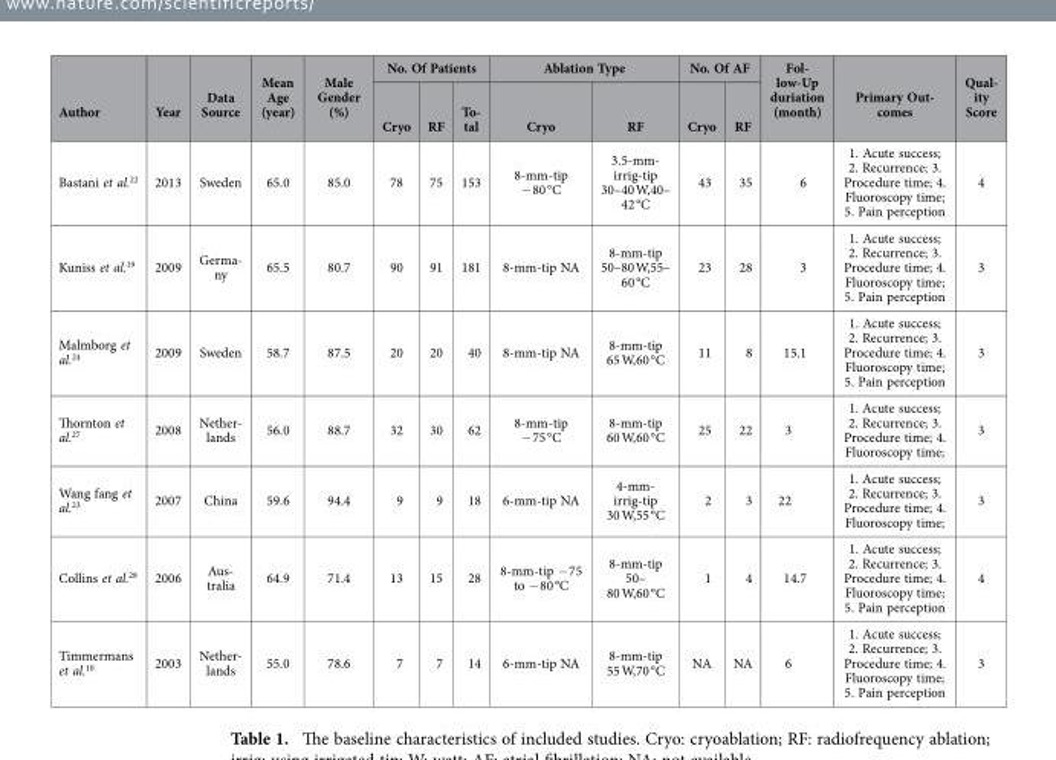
<table><thead><tr><td rowspan="2">Author</td><td rowspan="2">Year</td><td rowspan="2">Data Source</td><td rowspan="2">Mean Age (year)</td><td rowspan="2">Male Gender (%)</td><td colspan="3">No. Of Patients</td><td colspan="2">Ablation Type</td><td colspan="2">No. Of AF</td><td rowspan="2">Fol- low-Up duriation (month)</td><td rowspan="2">Primary Out- comes</td><td rowspan="2">Qual- ity Score</td></tr><tr><td>Cryo</td><td>RF</td><td>To- tal</td><td>Cryo</td><td>RF</td><td>Cryo</td><td>RF</td></tr></thead><tbody><tr><td>Bastani et al.22</td><td>2013</td><td>Sweden</td><td>65.0</td><td>85.0</td><td>78</td><td>75</td><td>153</td><td>8-mm-tip − 80 °C</td><td>3.5-mm- irrig-tip 30–40 W,40– 42 °C</td><td>43</td><td>35</td><td>6</td><td>1. Acute success; 2. Recurrence; 3. Procedure time; 4. Fluoroscopy time; 5. Pain perception</td><td>4</td></tr><tr><td>Kuniss et al.19</td><td>2009</td><td>Germa- ny</td><td>65.5</td><td>80.7</td><td>90</td><td>91</td><td>181</td><td>8-mm-tip NA</td><td>8-mm-tip 50–80 W,55– 60 °C</td><td>23</td><td>28</td><td>3</td><td>1. Acute success; 2. Recurrence; 3. Procedure time; 4. Fluoroscopy time; 5. Pain perception</td><td>3</td></tr><tr><td>Malmborg et al.24</td><td>2009</td><td>Sweden</td><td>58.7</td><td>87.5</td><td>20</td><td>20</td><td>40</td><td>8-mm-tip NA</td><td>8-mm-tip 65 W,60 °C</td><td>11</td><td>8</td><td>15.1</td><td>1. Acute success; 2. Recurrence; 3. Procedure time; 4. Fluoroscopy time; 5. Pain perception</td><td>3</td></tr><tr><td>Thornton et al.<sup>27</sup></td><td>2008</td><td>Nether- lands</td><td>56.0</td><td>88.7</td><td>32</td><td>30</td><td>62</td><td>8-mm-tip − 75 °C</td><td>8-mm-tip 60 W,60 °C</td><td>25</td><td>22</td><td>3</td><td>1. Acute success; 2. Recurrence; 3. Procedure time; 4. Fluoroscopy time;</td><td>3</td></tr><tr><td>Wang fang et al.23</td><td>2007</td><td>China</td><td>59.6</td><td>94.4</td><td>9</td><td>9</td><td>18</td><td>6-mm-tip NA</td><td>4-mm- irrig-tip 30 W,55 °C</td><td>2</td><td>3</td><td>22</td><td>1. Acute success; 2. Recurrence; 3. Procedure time; 4. Fluoroscopy time;</td><td>3</td></tr><tr><td>Collins et al.<sup>28</sup></td><td>2006</td><td>Aus- tralia</td><td>64.9</td><td>71.4</td><td>13</td><td>15</td><td>28</td><td>8-mm-tip − 75 to − 80 °C</td><td>8-mm-tip 50– 80 W,60 °C</td><td>1</td><td>4</td><td>14.7</td><td>1. Acute success; 2. Recurrence; 3. Procedure time; 4. Fluoroscopy time; 5. Pain perception</td><td>4</td></tr><tr><td>Timmermans et al.10</td><td>2003</td><td>Nether- lands</td><td>55.0</td><td>78.6</td><td>7</td><td>7</td><td>14</td><td>6-mm-tip NA</td><td>8-mm-tip 55 W,70 °C</td><td>NA</td><td>NA</td><td>6</td><td>1. Acute success; 2. Recurrence; 3. Procedure time; 4. Fluoroscopy time; 5. Pain perception</td><td>3</td></tr></tbody></table>